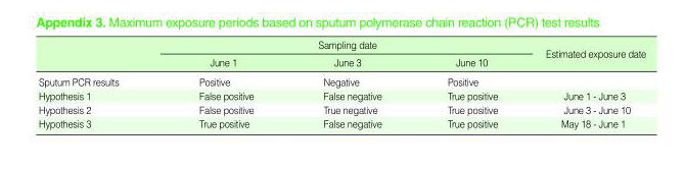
<table><thead><tr><td rowspan="2"></td><td colspan="3">Sampling date</td><td rowspan="2">Estimated exposure date</td></tr><tr><td>June 1</td><td>June 3</td><td>June 10</td></tr></thead><tbody><tr><td>Sputum PCR results</td><td>Positive</td><td>Negative</td><td>Positive</td><td></td></tr><tr><td>Hypothesis 1</td><td>False positive</td><td>False negative</td><td>True positive</td><td>June 1 - June 3</td></tr><tr><td>Hypothesis 2</td><td>False positive</td><td>True negative</td><td>True positive</td><td>June 3 - June 10</td></tr><tr><td>Hypothesis 3</td><td>True positive</td><td>False negative</td><td>True positive</td><td>May 18 - June 1</td></tr></tbody></table>